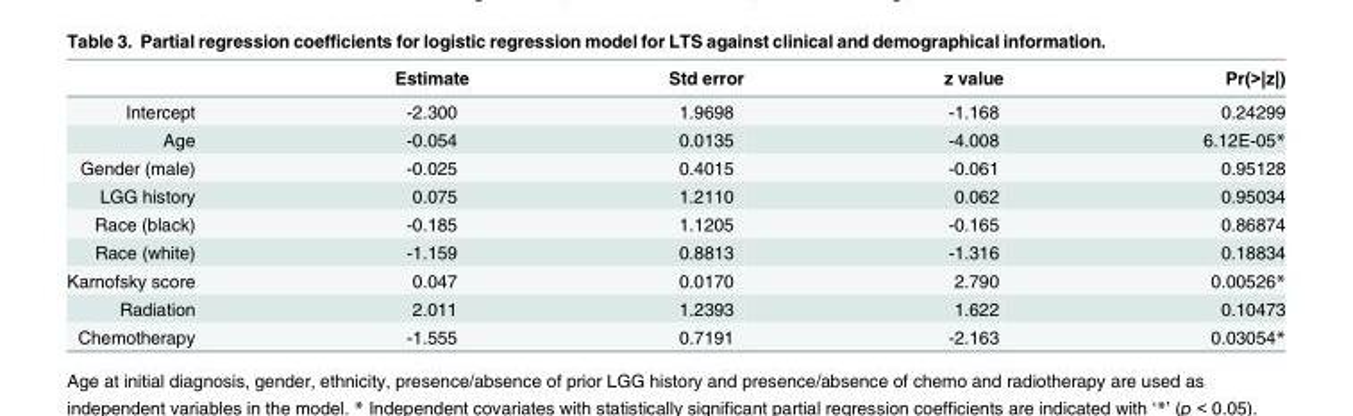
<table><thead><tr><td></td><td>Estimate</td><td>Std error</td><td>z value</td><td>Pr(&gt;|z|)</td></tr></thead><tbody><tr><td>Intercept</td><td>-2.300</td><td>1.9698</td><td>-1.168</td><td>0.24299</td></tr><tr><td>Age</td><td>-0.054</td><td>0.0135</td><td>-4.008</td><td>6.12E-05*</td></tr><tr><td>Gender (male)</td><td>-0.025</td><td>0.4015</td><td>-0.061</td><td>0.95128</td></tr><tr><td>LGG history</td><td>0.075</td><td>1.2110</td><td>0.062</td><td>0.95034</td></tr><tr><td>Race (black)</td><td>-0.185</td><td>1.1205</td><td>-0.165</td><td>0.86874</td></tr><tr><td>Race (white)</td><td>-1.159</td><td>0.8813</td><td>-1.316</td><td>0.18834</td></tr><tr><td>Karnofsky score</td><td>0.047</td><td>0.0170</td><td>2.790</td><td>0.00526*</td></tr><tr><td>Radiation</td><td>2.011</td><td>1.2393</td><td>1.622</td><td>0.10473</td></tr><tr><td>Chemotherapy</td><td>-1.555</td><td>0.7191</td><td>-2.163</td><td>0.03054*</td></tr></tbody></table>